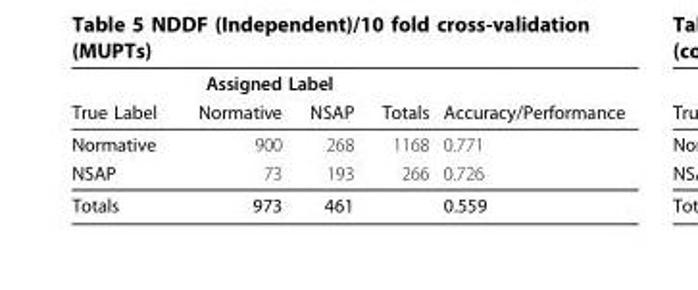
<table><thead><tr><td rowspan="2">True Label</td><td colspan="2">Assigned Label</td><td rowspan="2">Totals</td><td rowspan="2">Accuracy/Performance</td></tr><tr><td>Normative</td><td>NSAP</td></tr></thead><tbody><tr><td>Normative</td><td>900</td><td>268</td><td>1168</td><td>0.771</td></tr><tr><td>NSAP</td><td>73</td><td>193</td><td>266</td><td>0.726</td></tr><tr><td>Totals</td><td>973</td><td>461</td><td></td><td>0.559</td></tr></tbody></table>